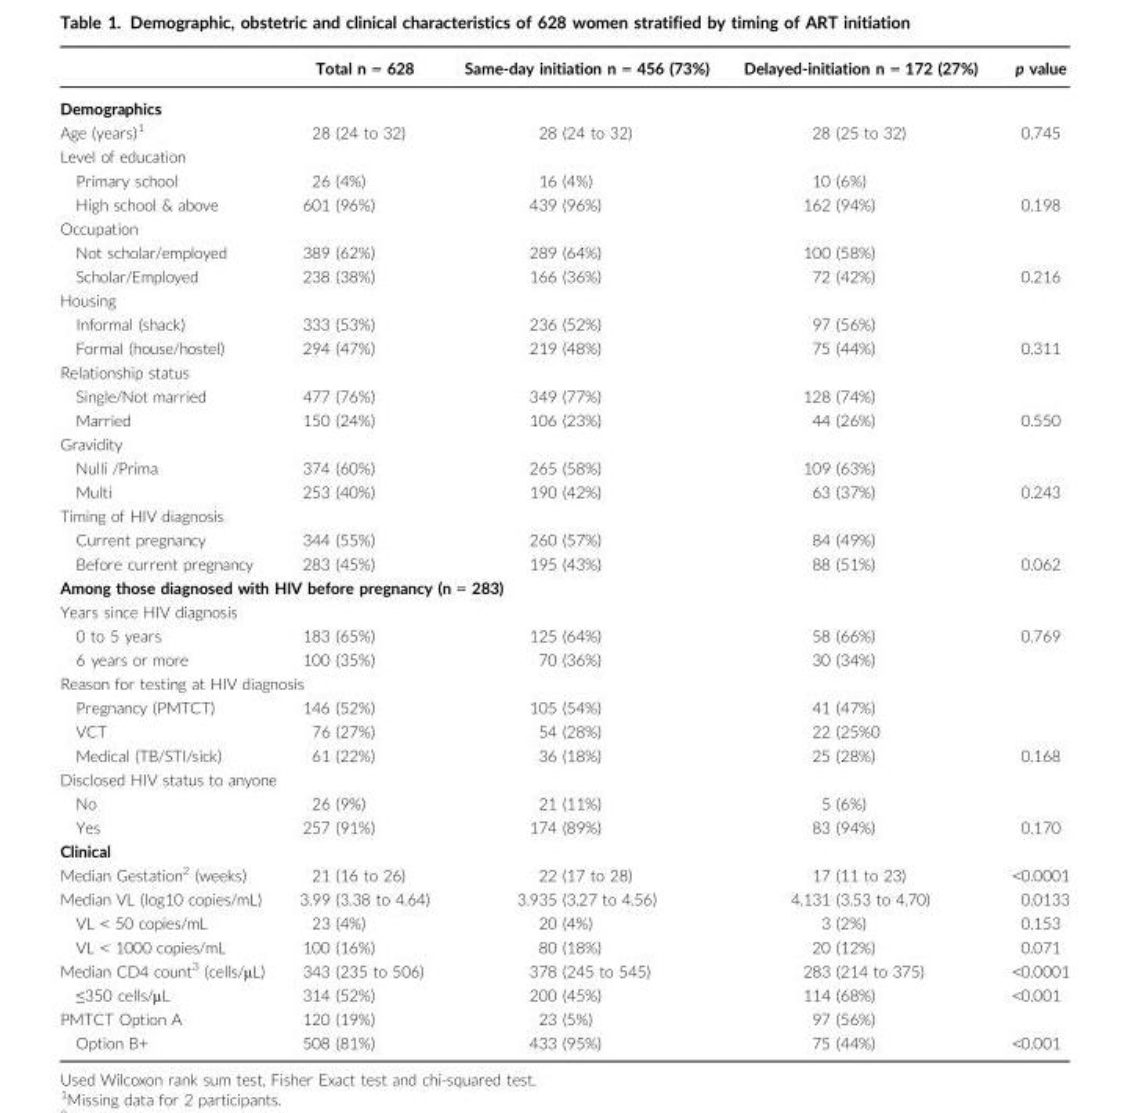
<table><thead><tr><td></td><td>Total n = 628</td><td>Same-day initiation n = 456 (73%)</td><td>Delayed-initiation n = 172 (27%)</td><td>p value</td></tr></thead><tbody><tr><td colspan="5">Demographics</td></tr><tr><td>Age (years)1</td><td>28 (24 to 32)</td><td>28 (24 to 32)</td><td>28 (25 to 32)</td><td>0.745</td></tr><tr><td colspan="5">Level of education</td></tr><tr><td>Primary school</td><td>26 (4%)</td><td>16 (4%)</td><td>10 (6%)</td><td></td></tr><tr><td>High school &amp; above</td><td>601 (96%)</td><td>439 (96%)</td><td>162 (94%)</td><td>0.198</td></tr><tr><td colspan="5">Occupation</td></tr><tr><td>Not scholar/employed</td><td>389 (62%)</td><td>289 (64%)</td><td>100 (58%)</td><td></td></tr><tr><td>Scholar/Employed</td><td>238 (38%)</td><td>166 (36%)</td><td>72 (42%)</td><td>0.216</td></tr><tr><td colspan="5">Housing</td></tr><tr><td>Informal (shack)</td><td>333 (53%)</td><td>236 (52%)</td><td>97 (56%)</td><td></td></tr><tr><td>Formal (house/hostel)</td><td>294 (47%)</td><td>219 (48%)</td><td>75 (44%)</td><td>0.311</td></tr><tr><td colspan="5">Relationship status</td></tr><tr><td>Single/Not married</td><td>477 (76%)</td><td>349 (77%)</td><td>128 (74%)</td><td></td></tr><tr><td>Married</td><td>150 (24%)</td><td>106 (23%)</td><td>44 (26%)</td><td>0.550</td></tr><tr><td colspan="5">Gravidity</td></tr><tr><td>Nulli /Prima</td><td>374 (60%)</td><td>265 (58%)</td><td>109 (63%)</td><td></td></tr><tr><td>Multi</td><td>253 (40%)</td><td>190 (42%)</td><td>63 (37%)</td><td>0.243</td></tr><tr><td colspan="5">Timing of HIV diagnosis</td></tr><tr><td>Current pregnancy</td><td>344 (55%)</td><td>260 (57%)</td><td>84 (49%)</td><td></td></tr><tr><td>Before current pregnancy</td><td>283 (45%)</td><td>195 (43%)</td><td>88 (51%)</td><td>0.062</td></tr><tr><td colspan="5">Among those diagnosed with HIV before pregnancy (n = 283)</td></tr><tr><td colspan="5">Years since HIV diagnosis</td></tr><tr><td>0 to 5 years</td><td>183 (65%)</td><td>125 (64%)</td><td>58 (66%)</td><td>0.769</td></tr><tr><td>6 years or more</td><td>100 (35%)</td><td>70 (36%)</td><td>30 (34%)</td><td></td></tr><tr><td colspan="5">Reason for testing at HIV diagnosis</td></tr><tr><td>Pregnancy (PMTCT)</td><td>146 (52%)</td><td>105 (54%)</td><td>41 (47%)</td><td></td></tr><tr><td>VCT</td><td>76 (27%)</td><td>54 (28%)</td><td>22 (25%0</td><td></td></tr><tr><td>Medical (TB/STI/sick)</td><td>61 (22%)</td><td>36 (18%)</td><td>25 (28%)</td><td>0.168</td></tr><tr><td colspan="5">Disclosed HIV status to anyone</td></tr><tr><td>No</td><td>26 (9%)</td><td>21 (11%)</td><td>5 (6%)</td><td></td></tr><tr><td>Yes</td><td>257 (91%)</td><td>174 (89%)</td><td>83 (94%)</td><td>0.170</td></tr><tr><td colspan="5">Clinical</td></tr><tr><td>Median Gestation2 (weeks)</td><td>21 (16 to 26)</td><td>22 (17 to 28)</td><td>17 (11 to 23)</td><td>&lt;0.0001</td></tr><tr><td>Median VL (log10 copies/mL)</td><td>3.99 (3.38 to 4.64)</td><td>3.935 (3.27 to 4.56)</td><td>4.131 (3.53 to 4.70)</td><td>0.0133</td></tr><tr><td>VL &lt; 50 copies/mL</td><td>23 (4%)</td><td>20 (4%)</td><td>3 (2%)</td><td>0.153</td></tr><tr><td>VL &lt; 1000 copies/mL</td><td>100 (16%)</td><td>80 (18%)</td><td>20 (12%)</td><td>0.071</td></tr><tr><td>Median CD4 count3 (cells/lL)</td><td>343 (235 to 506)</td><td>378 (245 to 545)</td><td>283 (214 to 375)</td><td>&lt;0.0001</td></tr><tr><td>≤350 cells/μL</td><td>314 (52%)</td><td>200 (45%)</td><td>114 (68%)</td><td>&lt;0.001</td></tr><tr><td>PMTCT Option A</td><td>120 (19%)</td><td>23 (5%)</td><td>97 (56%)</td><td></td></tr><tr><td>Option B+</td><td>508 (81%)</td><td>433 (95%)</td><td>75 (44%)</td><td>&lt;0.001</td></tr></tbody></table>